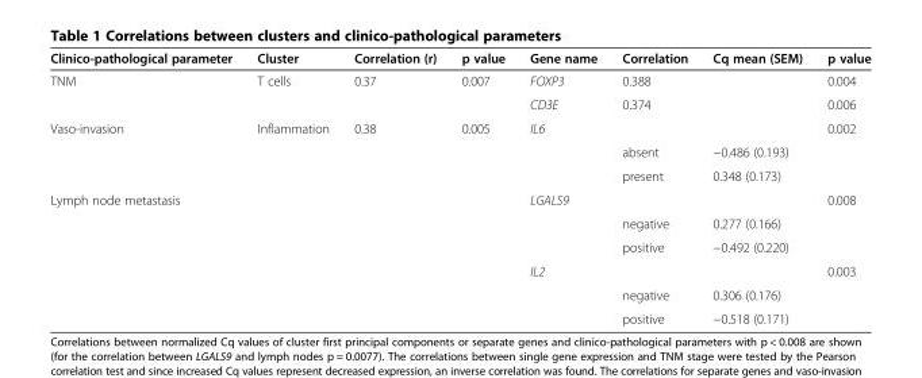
<table><thead><tr><td>Clinico-pathological parameter</td><td>Cluster</td><td>Correlation (r)</td><td>p value</td><td>Gene name</td><td>Correlation</td><td>Cq mean (SEM)</td><td>p value</td></tr></thead><tbody><tr><td rowspan="2">TNM</td><td>T cells</td><td>0.37</td><td>0.007</td><td>FOXP3</td><td>0.388</td><td></td><td>0.004</td></tr><tr><td></td><td></td><td></td><td>CD3E</td><td>0.374</td><td></td><td>0.006</td></tr><tr><td rowspan="3">Vaso-invasion</td><td>Inflammation</td><td>0.38</td><td>0.005</td><td>IL6</td><td></td><td></td><td>0.002</td></tr><tr><td></td><td></td><td></td><td></td><td>absent</td><td>−0.486 (0.193)</td><td></td></tr><tr><td></td><td></td><td></td><td></td><td>present</td><td>0.348 (0.173)</td><td></td></tr><tr><td rowspan="6">Lymph node metastasis</td><td></td><td></td><td></td><td>LGALS9</td><td></td><td></td><td>0.008</td></tr><tr><td></td><td></td><td></td><td></td><td>negative</td><td>0.277 (0.166)</td><td></td></tr><tr><td></td><td></td><td></td><td></td><td>positive</td><td>−0.492 (0.220)</td><td></td></tr><tr><td></td><td></td><td></td><td>IL2</td><td></td><td></td><td>0.003</td></tr><tr><td></td><td></td><td></td><td></td><td>negative</td><td>0.306 (0.176)</td><td></td></tr><tr><td></td><td></td><td></td><td></td><td>positive</td><td>−0.518 (0.171)</td><td></td></tr></tbody></table>